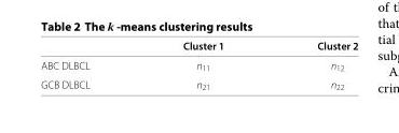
<table><thead><tr><td></td><td>Cluster 1</td><td>Cluster 2</td></tr></thead><tbody><tr><td>ABC DLBCL</td><td>n<sub>11</sub></td><td>n<sub>12</sub></td></tr><tr><td>GCB DLBCL</td><td>n<sub>21</sub></td><td>n<sub>22</sub></td></tr></tbody></table>